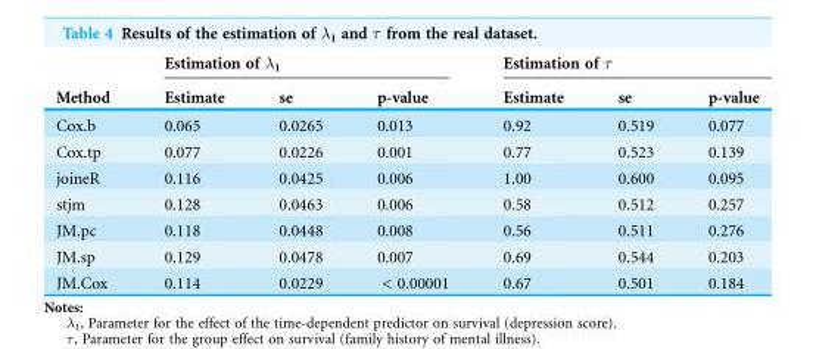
<table><thead><tr><td rowspan="2">Method</td><td colspan="3">Estimation of λ<sub>1</sub></td><td colspan="3">Estimation of τ</td></tr><tr><td>Estimate</td><td>se</td><td>p-value</td><td>Estimate</td><td>se</td><td>p-value</td></tr></thead><tbody><tr><td>Cox.b</td><td>0.065</td><td>0.0265</td><td>0.013</td><td>0.92</td><td>0.519</td><td>0.077</td></tr><tr><td>Cox.tp</td><td>0.077</td><td>0.0226</td><td>0.001</td><td>0.77</td><td>0.523</td><td>0.139</td></tr><tr><td>joineR</td><td>0.116</td><td>0.0425</td><td>0.006</td><td>1.00</td><td>0.600</td><td>0.095</td></tr><tr><td>stjm</td><td>0.128</td><td>0.0463</td><td>0.006</td><td>0.58</td><td>0.512</td><td>0.257</td></tr><tr><td>JM.pc</td><td>0.118</td><td>0.0448</td><td>0.008</td><td>0.56</td><td>0.511</td><td>0.276</td></tr><tr><td>JM.sp</td><td>0.129</td><td>0.0478</td><td>0.007</td><td>0.69</td><td>0.544</td><td>0.203</td></tr><tr><td>JM.Cox</td><td>0.114</td><td>0.0229</td><td>&lt; 0.00001</td><td>0.67</td><td>0.501</td><td>0.184</td></tr></tbody></table>